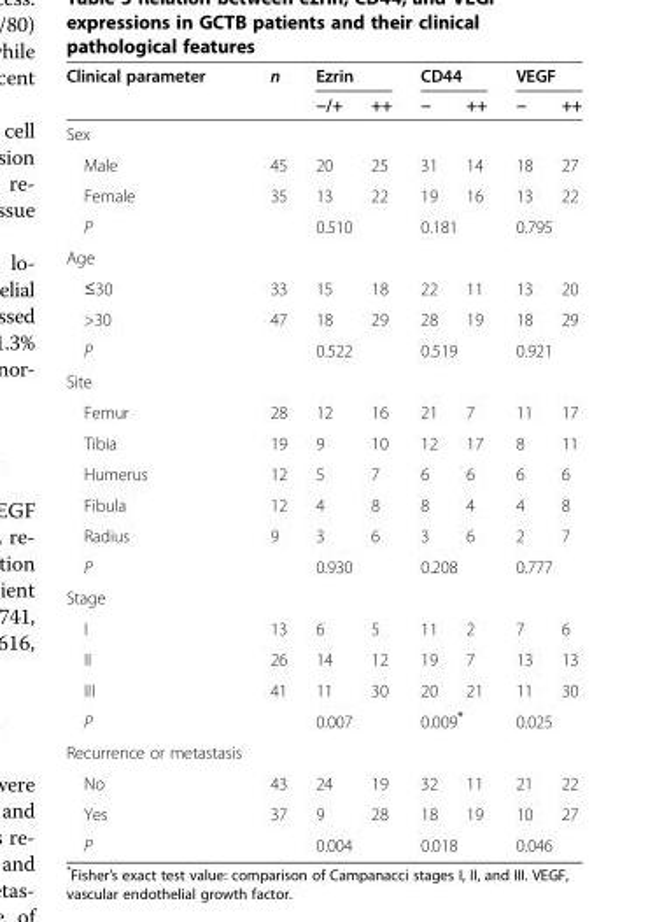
<table><thead><tr><td rowspan="2">Clinical parameter</td><td rowspan="2">n</td><td colspan="2">Ezrin</td><td colspan="2">CD44</td><td colspan="2">VEGF</td></tr><tr><td>−/+</td><td>++</td><td>−</td><td>++</td><td>−</td><td>++</td></tr></thead><tbody><tr><td colspan="8">Sex</td></tr><tr><td>Male</td><td>45</td><td>20</td><td>25</td><td>31</td><td>14</td><td>18</td><td>27</td></tr><tr><td>Female</td><td>35</td><td>13</td><td>22</td><td>19</td><td>16</td><td>13</td><td>22</td></tr><tr><td>P</td><td></td><td colspan="2">0.510</td><td colspan="2">0.181</td><td colspan="2">0.795</td></tr><tr><td colspan="8">Age</td></tr><tr><td>≤30</td><td>33</td><td>15</td><td>18</td><td>22</td><td>11</td><td>13</td><td>20</td></tr><tr><td>&gt;30</td><td>47</td><td>18</td><td>29</td><td>28</td><td>19</td><td>18</td><td>29</td></tr><tr><td>P</td><td></td><td colspan="2">0.522</td><td colspan="2">0.519</td><td colspan="2">0.921</td></tr><tr><td colspan="8">Site</td></tr><tr><td>Femur</td><td>28</td><td>12</td><td>16</td><td>21</td><td>7</td><td>11</td><td>17</td></tr><tr><td>Tibia</td><td>19</td><td>9</td><td>10</td><td>12</td><td>17</td><td>8</td><td>11</td></tr><tr><td>Humerus</td><td>12</td><td>5</td><td>7</td><td>6</td><td>6</td><td>6</td><td>6</td></tr><tr><td>Fibula</td><td>12</td><td>4</td><td>8</td><td>8</td><td>4</td><td>4</td><td>8</td></tr><tr><td>Radius</td><td>9</td><td>3</td><td>6</td><td>3</td><td>6</td><td>2</td><td>7</td></tr><tr><td>P</td><td></td><td colspan="2">0.930</td><td colspan="2">0.208</td><td colspan="2">0.777</td></tr><tr><td colspan="8">Stage</td></tr><tr><td>I</td><td>13</td><td>6</td><td>5</td><td>11</td><td>2</td><td>7</td><td>6</td></tr><tr><td>II</td><td>26</td><td>14</td><td>12</td><td>19</td><td>7</td><td>13</td><td>13</td></tr><tr><td>III</td><td>41</td><td>11</td><td>30</td><td>20</td><td>21</td><td>11</td><td>30</td></tr><tr><td>P</td><td></td><td colspan="2">0.007</td><td colspan="2">0.009*</td><td colspan="2">0.025</td></tr><tr><td colspan="8">Recurrence or metastasis</td></tr><tr><td>No</td><td>43</td><td>24</td><td>19</td><td>32</td><td>11</td><td>21</td><td>22</td></tr><tr><td>Yes</td><td>37</td><td>9</td><td>28</td><td>18</td><td>19</td><td>10</td><td>27</td></tr><tr><td>P</td><td></td><td colspan="2">0.004</td><td colspan="2">0.018</td><td colspan="2">0.046</td></tr></tbody></table>